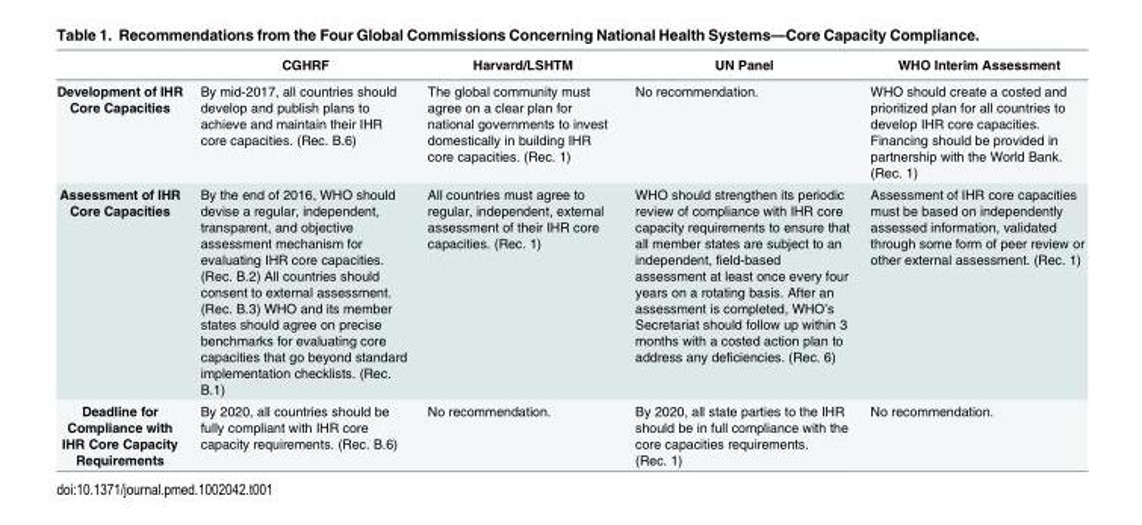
<table><thead><tr><td></td><td>CGHRF</td><td>Harvard/LSHTM</td><td>UN Panel</td><td>WHO Interim Assessment</td></tr></thead><tbody><tr><td>Development of IHR Core Capacities</td><td>By mid-2017, all countries should develop and publish plans to achieve and maintain their IHR core capacities. (Rec. B.6)</td><td>The global community must agree on a clear plan for national governments to invest domestically in building IHR core capacities. (Rec. 1)</td><td>No recommendation.</td><td>WHO should create a costed and prioritized plan for all countries to develop IHR core capacities. Financing should be provided in partnership with the World Bank. (Rec. 1)</td></tr><tr><td>Assessment of IHR Core Capacities</td><td>By the end of 2016, WHO should devise a regular, independent, transparent, and objective assessment mechanism for evaluating IHR core capacities. (Rec. B.2) All countries should consent to external assessment. (Rec. B.3) WHO and its member states should agree on precise benchmarks for evaluating core capacities that go beyond standard implementation checklists. (Rec. B.1)</td><td>All countries must agree to regular, independent, external assessment of their IHR core capacities. (Rec. 1)</td><td>WHO should strengthen its periodic review of compliance with IHR core capacity requirements to ensure that all member states are subject to an independent, field-based assessment at least once every four years on a rotating basis. After an assessment is completed, WHO’s Secretariat should follow up within 3 months with a costed action plan to address any deficiencies. (Rec. 6)</td><td>Assessment of IHR core capacities must be based on independently assessed information, validated through some form of peer review or other external assessment. (Rec. 1)</td></tr><tr><td>Deadline for Compliance with IHR Core Capacity Requirements</td><td>By 2020, all countries should be fully compliant with IHR core capacity requirements. (Rec. B.6)</td><td>No recommendation.</td><td>By 2020, all state parties to the IHR should be in full compliance with the core capacities requirements. (Rec. 1)</td><td>No recommendation.</td></tr></tbody></table>